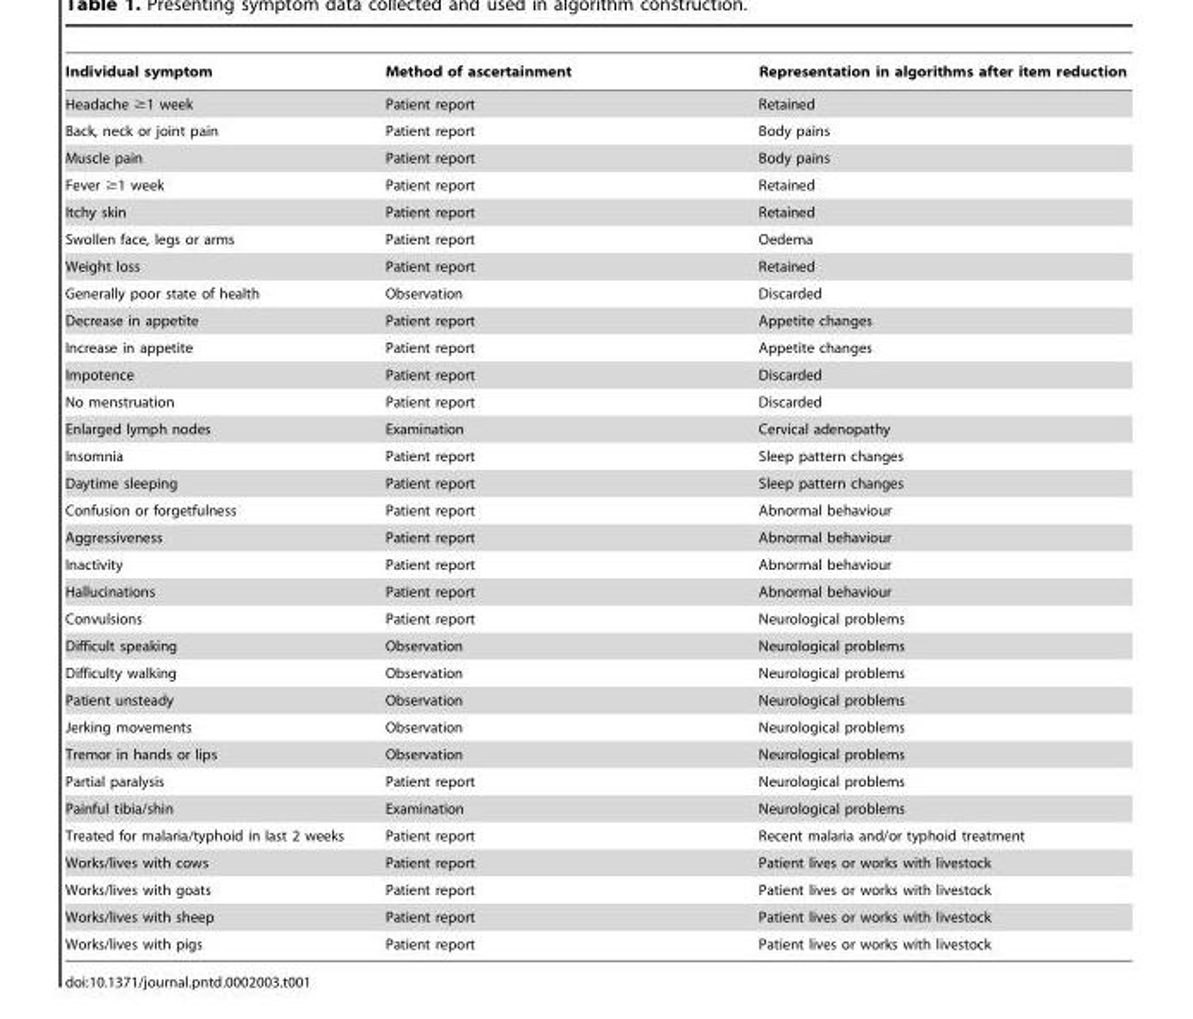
<table><thead><tr><td>Individual symptom</td><td>Method of ascertainment</td><td>Representation in algorithms after item reduction</td></tr></thead><tbody><tr><td>Headache ≥1 week</td><td>Patient report</td><td>Retained</td></tr><tr><td>Back, neck or joint pain</td><td>Patient report</td><td>Body pains</td></tr><tr><td>Muscle pain</td><td>Patient report</td><td>Body pains</td></tr><tr><td>Fever ≥1 week</td><td>Patient report</td><td>Retained</td></tr><tr><td>Itchy skin</td><td>Patient report</td><td>Retained</td></tr><tr><td>Swollen face, legs or arms</td><td>Patient report</td><td>Oedema</td></tr><tr><td>Weight loss</td><td>Patient report</td><td>Retained</td></tr><tr><td>Generally poor state of health</td><td>Observation</td><td>Discarded</td></tr><tr><td>Decrease in appetite</td><td>Patient report</td><td>Appetite changes</td></tr><tr><td>Increase in appetite</td><td>Patient report</td><td>Appetite changes</td></tr><tr><td>Impotence</td><td>Patient report</td><td>Discarded</td></tr><tr><td>No menstruation</td><td>Patient report</td><td>Discarded</td></tr><tr><td>Enlarged lymph nodes</td><td>Examination</td><td>Cervical adenopathy</td></tr><tr><td>Insomnia</td><td>Patient report</td><td>Sleep pattern changes</td></tr><tr><td>Daytime sleeping</td><td>Patient report</td><td>Sleep pattern changes</td></tr><tr><td>Confusion or forgetfulness</td><td>Patient report</td><td>Abnormal behaviour</td></tr><tr><td>Aggressiveness</td><td>Patient report</td><td>Abnormal behaviour</td></tr><tr><td>Inactivity</td><td>Patient report</td><td>Abnormal behaviour</td></tr><tr><td>Hallucinations</td><td>Patient report</td><td>Abnormal behaviour</td></tr><tr><td>Convulsions</td><td>Patient report</td><td>Neurological problems</td></tr><tr><td>Difficult speaking</td><td>Observation</td><td>Neurological problems</td></tr><tr><td>Difficulty walking</td><td>Observation</td><td>Neurological problems</td></tr><tr><td>Patient unsteady</td><td>Observation</td><td>Neurological problems</td></tr><tr><td>Jerking movements</td><td>Observation</td><td>Neurological problems</td></tr><tr><td>Tremor in hands or lips</td><td>Observation</td><td>Neurological problems</td></tr><tr><td>Partial paralysis</td><td>Patient report</td><td>Neurological problems</td></tr><tr><td>Painful tibia/shin</td><td>Examination</td><td>Neurological problems</td></tr><tr><td>Treated for malaria/typhoid in last 2 weeks</td><td>Patient report</td><td>Recent malaria and/or typhoid treatment</td></tr><tr><td>Works/lives with cows</td><td>Patient report</td><td>Patient lives or works with livestock</td></tr><tr><td>Works/lives with goats</td><td>Patient report</td><td>Patient lives or works with livestock</td></tr><tr><td>Works/lives with sheep</td><td>Patient report</td><td>Patient lives or works with livestock</td></tr><tr><td>Works/lives with pigs</td><td>Patient report</td><td>Patient lives or works with livestock</td></tr></tbody></table>